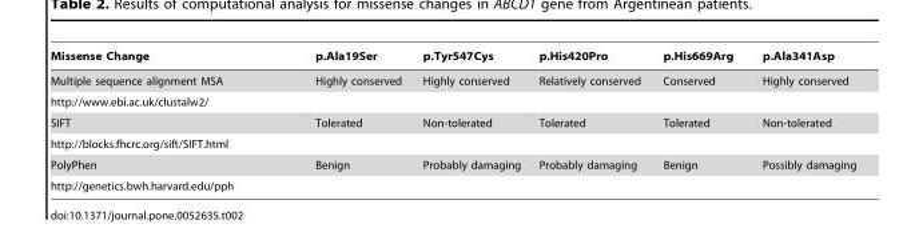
<table><thead><tr><td>Missense Change</td><td>p.Ala19Ser</td><td>p.Tyr547Cys</td><td>p.His420Pro</td><td>p.His669Arg</td><td>p.Ala341Asp</td></tr></thead><tbody><tr><td>Multiple sequence alignment MSA</td><td>Highly conserved</td><td>Highly conserved</td><td>Relatively conserved</td><td>Conserved</td><td>Highly conserved</td></tr><tr><td colspan="6">http://www.ebi.ac.uk/clustalw2/</td></tr><tr><td>SIFT</td><td>Tolerated</td><td>Non-tolerated</td><td>Tolerated</td><td>Tolerated</td><td>Non-tolerated</td></tr><tr><td colspan="6">http://blocks.fhcrc.org/sift/SIFT.html</td></tr><tr><td>PolyPhen</td><td>Benign</td><td>Probably damaging</td><td>Probably damaging</td><td>Benign</td><td>Possibly damaging</td></tr><tr><td>http://genetics.bwh.harvard.edu/pph</td><td></td><td></td><td></td><td></td><td></td></tr></tbody></table>